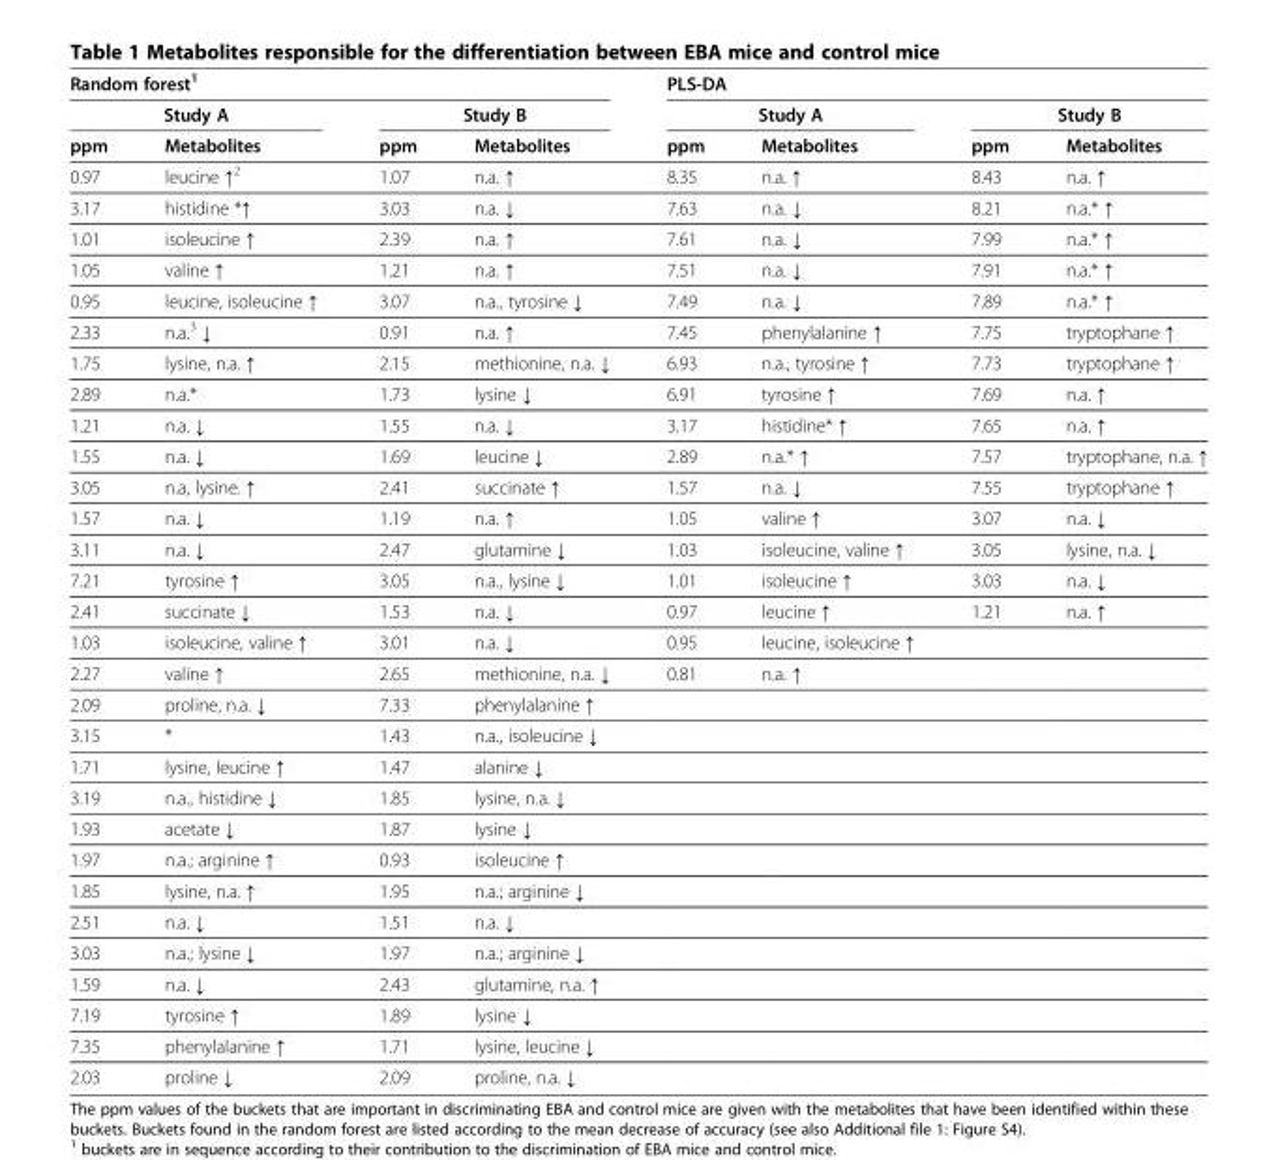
<table><thead><tr><td colspan="4">Random forest<sup>1</sup></td><td colspan="4">PLS-DA</td></tr><tr><td colspan="2">Study A</td><td colspan="2">Study B</td><td colspan="2">Study A</td><td colspan="2">Study B</td></tr><tr><td>ppm</td><td>Metabolites</td><td>ppm</td><td>Metabolites</td><td>ppm</td><td>Metabolites</td><td>ppm</td><td>Metabolites</td></tr></thead><tbody><tr><td>0.97</td><td>leucine ↑<sup>2</sup></td><td>1.07</td><td>n.a. ↑</td><td>8.35</td><td>n.a. ↑</td><td>8.43</td><td>n.a. ↑</td></tr><tr><td>3.17</td><td>histidine *↑</td><td>3.03</td><td>n.a. ↓</td><td>7.63</td><td>n.a. ↓</td><td>8.21</td><td>n.a.* ↑</td></tr><tr><td>1.01</td><td>isoleucine ↑</td><td>2.39</td><td>n.a. ↑</td><td>7.61</td><td>n.a. ↓</td><td>7.99</td><td>n.a.* ↑</td></tr><tr><td>1.05</td><td>valine ↑</td><td>1.21</td><td>n.a. ↑</td><td>7.51</td><td>n.a. ↓</td><td>7.91</td><td>n.a.* ↑</td></tr><tr><td>0.95</td><td>leucine, isoleucine ↑</td><td>3.07</td><td>n.a., tyrosine ↓</td><td>7.49</td><td>n.a. ↓</td><td>7.89</td><td>n.a.* ↑</td></tr><tr><td>2.33</td><td>n.a.<sup>3</sup> ↓</td><td>0.91</td><td>n.a. ↑</td><td>7.45</td><td>phenylalanine ↑</td><td>7.75</td><td>tryptophane ↑</td></tr><tr><td>1.75</td><td>lysine, n.a. ↑</td><td>2.15</td><td>methionine, n.a. ↓</td><td>6.93</td><td>n.a., tyrosine ↑</td><td>7.73</td><td>tryptophane ↑</td></tr><tr><td>2.89</td><td>n.a.*</td><td>1.73</td><td>lysine ↓</td><td>6.91</td><td>tyrosine ↑</td><td>7.69</td><td>n.a. ↑</td></tr><tr><td>1.21</td><td>n.a. ↓</td><td>1.55</td><td>n.a. ↓</td><td>3.17</td><td>histidine* ↑</td><td>7.65</td><td>n.a. ↑</td></tr><tr><td>1.55</td><td>n.a. ↓</td><td>1.69</td><td>leucine ↓</td><td>2.89</td><td>n.a.* ↑</td><td>7.57</td><td>tryptophane, n.a. ↑</td></tr><tr><td>3.05</td><td>n.a, lysine. ↑</td><td>2.41</td><td>succinate ↑</td><td>1.57</td><td>n.a. ↓</td><td>7.55</td><td>tryptophane ↑</td></tr><tr><td>1.57</td><td>n.a. ↓</td><td>1.19</td><td>n.a. ↑</td><td>1.05</td><td>valine ↑</td><td>3.07</td><td>n.a. ↓</td></tr><tr><td>3.11</td><td>n.a. ↓</td><td>2.47</td><td>glutamine ↓</td><td>1.03</td><td>isoleucine, valine ↑</td><td>3.05</td><td>lysine, n.a. ↓</td></tr><tr><td>7.21</td><td>tyrosine ↑</td><td>3.05</td><td>n.a., lysine ↓</td><td>1.01</td><td>isoleucine ↑</td><td>3.03</td><td>n.a. ↓</td></tr><tr><td>2.41</td><td>succinate ↓</td><td>1.53</td><td>n.a. ↓</td><td>0.97</td><td>leucine ↑</td><td>1.21</td><td>n.a. ↑</td></tr><tr><td>1.03</td><td>isoleucine, valine ↑</td><td>3.01</td><td>n.a. ↓</td><td>0.95</td><td>leucine, isoleucine ↑</td><td></td><td></td></tr><tr><td>2.27</td><td>valine ↑</td><td>2.65</td><td>methionine, n.a. ↓</td><td>0.81</td><td>n.a. ↑</td><td></td><td></td></tr><tr><td>2.09</td><td>proline, n.a. ↓</td><td>7.33</td><td>phenylalanine ↑</td><td></td><td></td><td></td><td></td></tr><tr><td>3.15</td><td>*</td><td>1.43</td><td>n.a., isoleucine ↓</td><td></td><td></td><td></td><td></td></tr><tr><td>1.71</td><td>lysine, leucine ↑</td><td>1.47</td><td>alanine ↓</td><td></td><td></td><td></td><td></td></tr><tr><td>3.19</td><td>n.a., histidine ↓</td><td>1.85</td><td>lysine, n.a. ↓</td><td></td><td></td><td></td><td></td></tr><tr><td>1.93</td><td>acetate ↓</td><td>1.87</td><td>lysine ↓</td><td></td><td></td><td></td><td></td></tr><tr><td>1.97</td><td>n.a.; arginine ↑</td><td>0.93</td><td>isoleucine ↑</td><td></td><td></td><td></td><td></td></tr><tr><td>1.85</td><td>lysine, n.a. ↑</td><td>1.95</td><td>n.a.; arginine ↓</td><td></td><td></td><td></td><td></td></tr><tr><td>2.51</td><td>n.a. ↓</td><td>1.51</td><td>n.a. ↓</td><td></td><td></td><td></td><td></td></tr><tr><td>3.03</td><td>n.a.; lysine ↓</td><td>1.97</td><td>n.a.; arginine ↓</td><td></td><td></td><td></td><td></td></tr><tr><td>1.59</td><td>n.a. ↓</td><td>2.43</td><td>glutamine, n.a. ↑</td><td></td><td></td><td></td><td></td></tr><tr><td>7.19</td><td>tyrosine ↑</td><td>1.89</td><td>lysine ↓</td><td></td><td></td><td></td><td></td></tr><tr><td>7.35</td><td>phenylalanine ↑</td><td>1.71</td><td>lysine, leucine ↓</td><td></td><td></td><td></td><td></td></tr><tr><td>2.03</td><td>proline ↓</td><td>2.09</td><td>proline, n.a. ↓</td><td></td><td></td><td></td><td></td></tr></tbody></table>